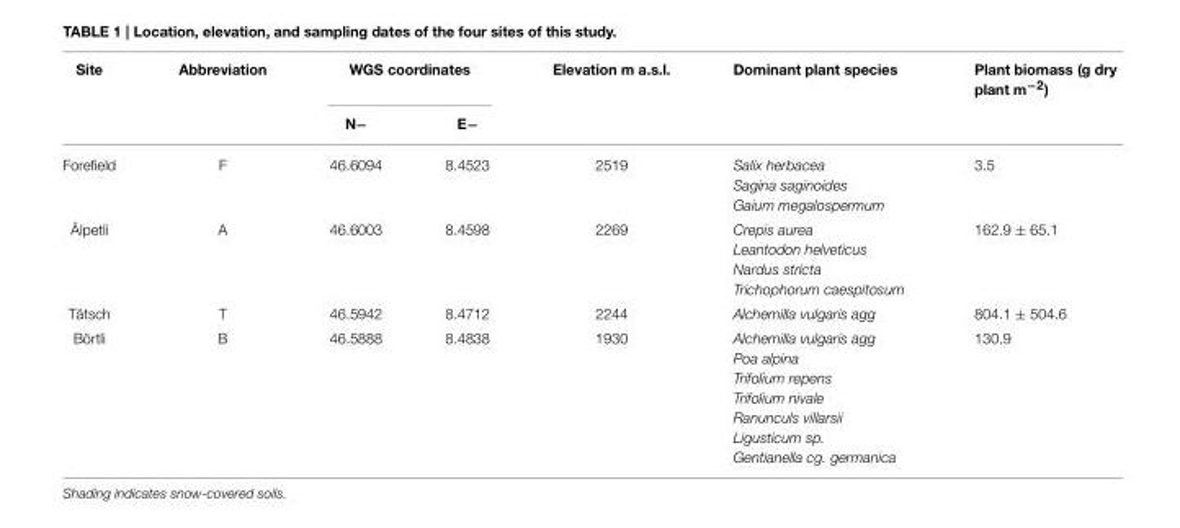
<table><thead><tr><td rowspan="2">Site</td><td rowspan="2">Abbreviation</td><td colspan="2">WGS coordinates</td><td rowspan="2">Elevation m a.s.l.</td><td rowspan="2">Dominant plant species</td><td rowspan="2">Plant biomass (g dry plant m<sup>−2</sup>)</td></tr><tr><td>N−</td><td>E−</td></tr></thead><tbody><tr><td>Forefield</td><td>F</td><td>46.6094</td><td>8.4523</td><td>2519</td><td>Salix herbacea Sagina saginoides Gaium megalospermum</td><td>3.5</td></tr><tr><td>Älpetli</td><td>A</td><td>46.6003</td><td>8.4598</td><td>2269</td><td>Crepis aurea Leantodon helveticus Nardus stricta Trichophorum caespitosum</td><td>162.9 ± 65.1</td></tr><tr><td>Tätsch</td><td>T</td><td>46.5942</td><td>8.4712</td><td>2244</td><td>Alchemilla vulgaris agg</td><td>804.1 ± 504.6</td></tr><tr><td>Börtli</td><td>B</td><td>46.5888</td><td>8.4838</td><td>1930</td><td>Alchemilla vulgaris agg Poa alpina Trifolium repens Trifolium nivale Ranunculs villarsii Ligusticum sp. Gentianella cg. germanica</td><td>130.9</td></tr></tbody></table>